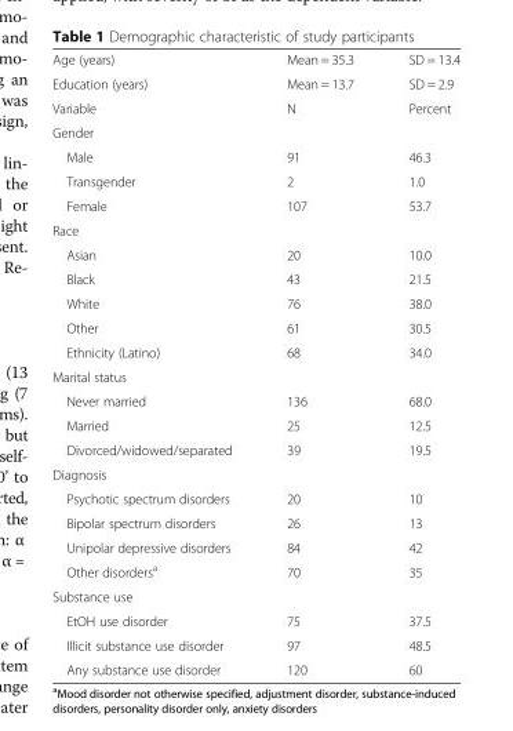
<table><tbody><tr><td>Age (years)</td><td>Mean = 35.3</td><td>SD = 13.4</td></tr><tr><td>Education (years)</td><td>Mean = 13.7</td><td>SD = 2.9</td></tr><tr><td>Variable</td><td>N</td><td>Percent</td></tr><tr><td colspan="3">Gender</td></tr><tr><td>Male</td><td>91</td><td>46.3</td></tr><tr><td>Transgender</td><td>2</td><td>1.0</td></tr><tr><td>Female</td><td>107</td><td>53.7</td></tr><tr><td colspan="3">Race</td></tr><tr><td>Asian</td><td>20</td><td>10.0</td></tr><tr><td>Black</td><td>43</td><td>21.5</td></tr><tr><td>White</td><td>76</td><td>38.0</td></tr><tr><td>Other</td><td>61</td><td>30.5</td></tr><tr><td>Ethnicity (Latino)</td><td>68</td><td>34.0</td></tr><tr><td colspan="3">Marital status</td></tr><tr><td>Never married</td><td>136</td><td>68.0</td></tr><tr><td>Married</td><td>25</td><td>12.5</td></tr><tr><td>Divorced/widowed/separated</td><td>39</td><td>19.5</td></tr><tr><td colspan="3">Diagnosis</td></tr><tr><td>Psychotic spectrum disorders</td><td>20</td><td>10</td></tr><tr><td>Bipolar spectrum disorders</td><td>26</td><td>13</td></tr><tr><td>Unipolar depressive disorders</td><td>84</td><td>42</td></tr><tr><td>Other disorders<sup>a</sup></td><td>70</td><td>35</td></tr><tr><td colspan="3">Substance use</td></tr><tr><td>EtOH use disorder</td><td>75</td><td>37.5</td></tr><tr><td>Illicit substance use disorder</td><td>97</td><td>48.5</td></tr><tr><td>Any substance use disorder</td><td>120</td><td>60</td></tr></tbody></table>